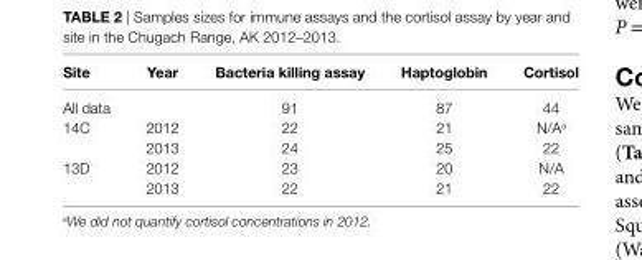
<table><thead><tr><td>site</td><td>Year</td><td>Bacteria killing assay</td><td>haptoglobin</td><td>cortisol</td></tr></thead><tbody><tr><td>All data</td><td></td><td>91</td><td>87</td><td>44</td></tr><tr><td rowspan="2">14C</td><td>2012</td><td>22</td><td>21</td><td>N/A<sup>a</sup></td></tr><tr><td>2013</td><td>24</td><td>25</td><td>22</td></tr><tr><td rowspan="2">13D</td><td>2012</td><td>23</td><td>20</td><td>N/A</td></tr><tr><td>2013</td><td>22</td><td>21</td><td>22</td></tr></tbody></table>